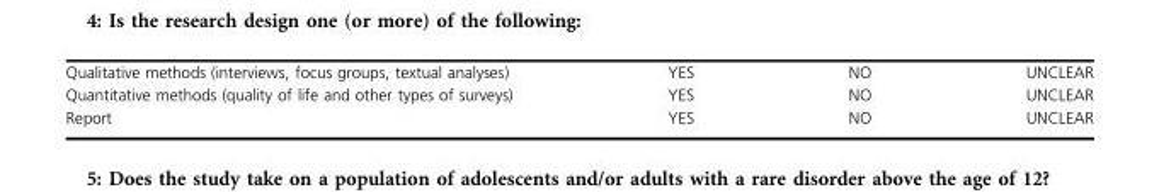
<table><tbody><tr><td>Qualitative methods (interviews, focus groups, textual analyses)</td><td>⁭YES</td><td>⁭NO</td><td>⁭UNCLEAR</td></tr><tr><td>Quantitative methods (quality of life and other types of surveys)</td><td>⁭YES</td><td>⁭NO</td><td>⁭UNCLEAR</td></tr><tr><td>Report</td><td>⁭YES</td><td>⁭NO</td><td>⁭UNCLEAR</td></tr></tbody></table>